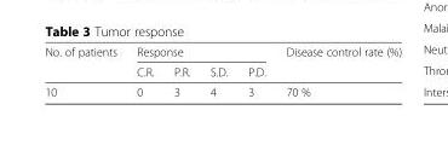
<table><thead><tr><td rowspan="2">No. of patients</td><td colspan="4">Response</td><td rowspan="2">Disease control rate (%)</td></tr><tr><td>C.R.</td><td>P.R.</td><td>S.D.</td><td>P.D.</td></tr></thead><tbody><tr><td>10</td><td>0</td><td>3</td><td>4</td><td>3</td><td>70 %</td></tr></tbody></table>